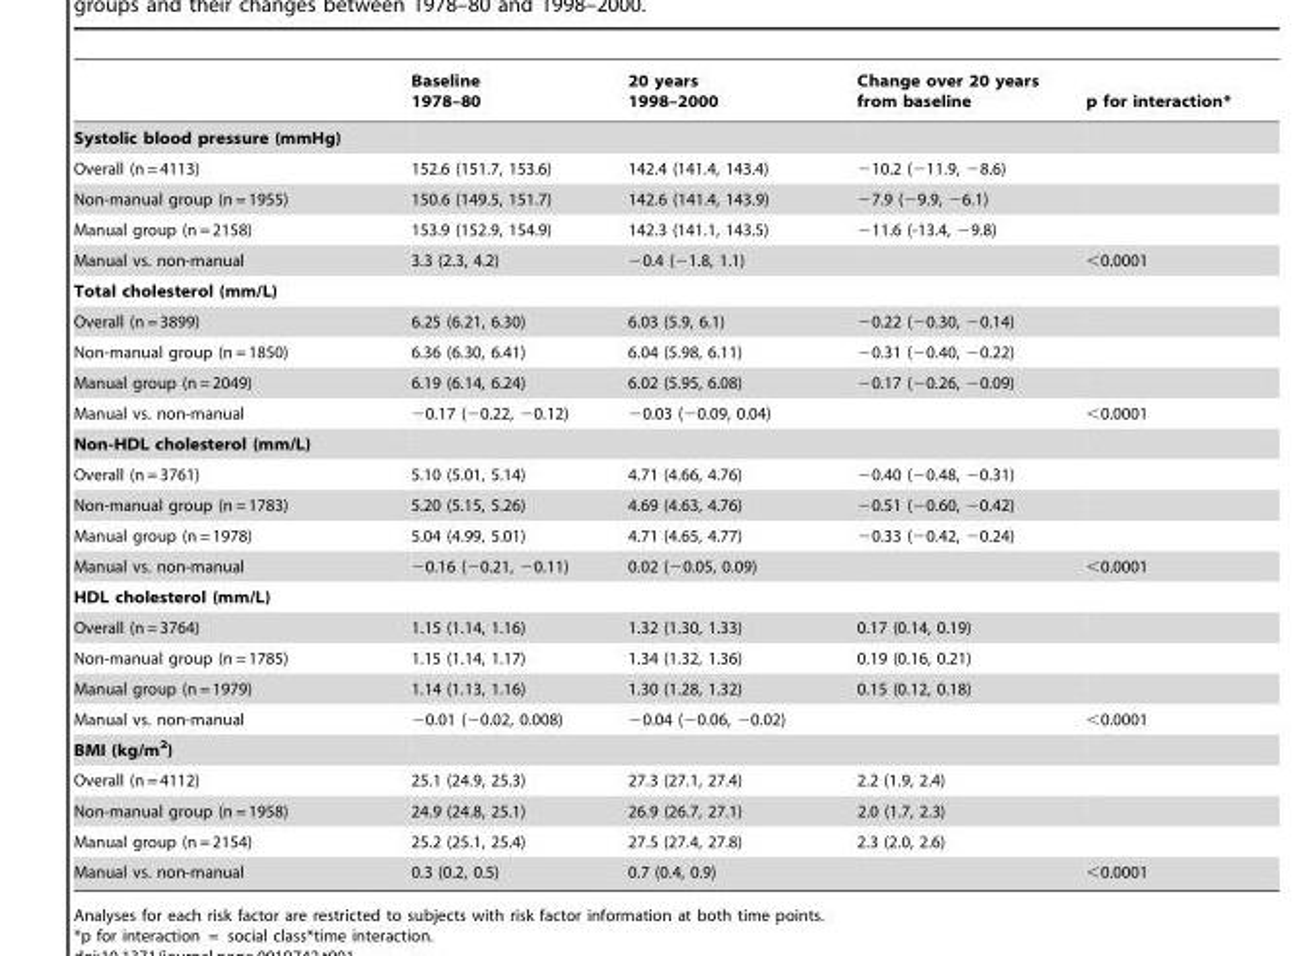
<table><thead><tr><td></td><td>Baseline 1978–80</td><td>20 years 1998–2000</td><td>Change over 20 years from baseline</td><td>p for interaction*</td></tr></thead><tbody><tr><td colspan="5">Systolic blood pressure (mmHg)</td></tr><tr><td>Overall (n = 4113)</td><td>152.6 (151.7, 153.6)</td><td>142.4 (141.4, 143.4)</td><td>−10.2 (−11.9, −8.6)</td><td></td></tr><tr><td>Non-manual group (n = 1955)</td><td>150.6 (149.5, 151.7)</td><td>142.6 (141.4, 143.9)</td><td>−7.9 (−9.9, −6.1)</td><td></td></tr><tr><td>Manual group (n = 2158)</td><td>153.9 (152.9, 154.9)</td><td>142.3 (141.1, 143.5)</td><td>−11.6 (-13.4, −9.8)</td><td></td></tr><tr><td>Manual vs. non-manual</td><td>3.3 (2.3, 4.2)</td><td>−0.4 (−1.8, 1.1)</td><td></td><td>&lt;0.0001</td></tr><tr><td colspan="5">Total cholesterol (mm/L)</td></tr><tr><td>Overall (n = 3899)</td><td>6.25 (6.21, 6.30)</td><td>6.03 (5.9, 6.1)</td><td>−0.22 (−0.30, −0.14)</td><td></td></tr><tr><td>Non-manual group (n = 1850)</td><td>6.36 (6.30, 6.41)</td><td>6.04 (5.98, 6.11)</td><td>−0.31 (−0.40, −0.22)</td><td></td></tr><tr><td>Manual group (n = 2049)</td><td>6.19 (6.14, 6.24)</td><td>6.02 (5.95, 6.08)</td><td>−0.17 (−0.26, −0.09)</td><td></td></tr><tr><td>Manual vs. non-manual</td><td>−0.17 (−0.22, −0.12)</td><td>−0.03 (−0.09, 0.04)</td><td></td><td>&lt;0.0001</td></tr><tr><td colspan="5">Non-HDL cholesterol (mm/L)</td></tr><tr><td>Overall (n = 3761)</td><td>5.10 (5.01, 5.14)</td><td>4.71 (4.66, 4.76)</td><td>−0.40 (−0.48, −0.31)</td><td></td></tr><tr><td>Non-manual group (n = 1783)</td><td>5.20 (5.15, 5.26)</td><td>4.69 (4.63, 4.76)</td><td>−0.51 (−0.60, −0.42)</td><td></td></tr><tr><td>Manual group (n = 1978)</td><td>5.04 (4.99, 5.01)</td><td>4.71 (4.65, 4.77)</td><td>−0.33 (−0.42, −0.24)</td><td></td></tr><tr><td>Manual vs. non-manual</td><td>−0.16 (−0.21, −0.11)</td><td>0.02 (−0.05, 0.09)</td><td></td><td>&lt;0.0001</td></tr><tr><td colspan="5">HDL cholesterol (mm/L)</td></tr><tr><td>Overall (n = 3764)</td><td>1.15 (1.14, 1.16)</td><td>1.32 (1.30, 1.33)</td><td>0.17 (0.14, 0.19)</td><td></td></tr><tr><td>Non-manual group (n = 1785)</td><td>1.15 (1.14, 1.17)</td><td>1.34 (1.32, 1.36)</td><td>0.19 (0.16, 0.21)</td><td></td></tr><tr><td>Manual group (n = 1979)</td><td>1.14 (1.13, 1.16)</td><td>1.30 (1.28, 1.32)</td><td>0.15 (0.12, 0.18)</td><td></td></tr><tr><td>Manual vs. non-manual</td><td>−0.01 (−0.02, 0.008)</td><td>−0.04 (−0.06, −0.02)</td><td></td><td>&lt;0.0001</td></tr><tr><td colspan="5">BMI (kg/m<sup>2</sup>)</td></tr><tr><td>Overall (n = 4112)</td><td>25.1 (24.9, 25.3)</td><td>27.3 (27.1, 27.4)</td><td>2.2 (1.9, 2.4)</td><td></td></tr><tr><td>Non-manual group (n = 1958)</td><td>24.9 (24.8, 25.1)</td><td>26.9 (26.7, 27.1)</td><td>2.0 (1.7, 2.3)</td><td></td></tr><tr><td>Manual group (n = 2154)</td><td>25.2 (25.1, 25.4)</td><td>27.5 (27.4, 27.8)</td><td>2.3 (2.0, 2.6)</td><td></td></tr><tr><td>Manual vs. non-manual</td><td>0.3 (0.2, 0.5)</td><td>0.7 (0.4, 0.9)</td><td></td><td>&lt;0.0001</td></tr></tbody></table>